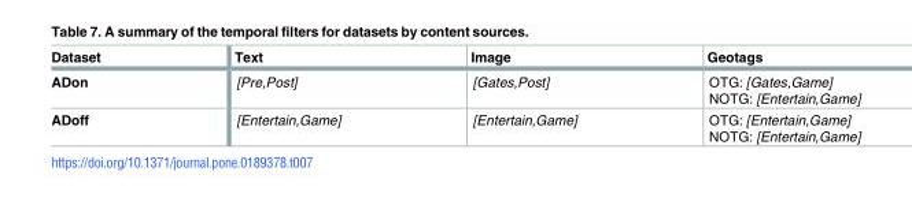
<table><thead><tr><td>Dataset</td><td>Text</td><td>Image</td><td>Geotags</td></tr></thead><tbody><tr><td>ADon</td><td>[Pre,Post]</td><td>[Gates,Post]</td><td>OTG: [Gates,Game] NOTG: [Entertain,Game]</td></tr><tr><td>ADoff</td><td>[Entertain,Game]</td><td>[Entertain,Game]</td><td>OTG: [Entertain,Game] NOTG: [Entertain,Game]</td></tr></tbody></table>